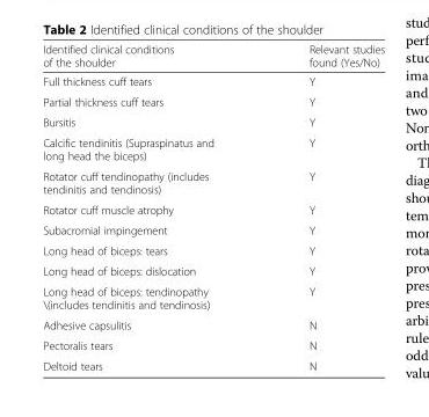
<table><thead><tr><td>Identified clinical conditions of the shoulder</td><td>Relevant studies found (Yes/No)</td></tr></thead><tbody><tr><td>Full thickness cuff tears</td><td>Y</td></tr><tr><td>Partial thickness cuff tears</td><td>Y</td></tr><tr><td>Bursitis</td><td>Y</td></tr><tr><td>Calcific tendinitis (Supraspinatus and long head the biceps)</td><td>Y</td></tr><tr><td>Rotator cuff tendinopathy (includes tendinitis and tendinosis)</td><td>Y</td></tr><tr><td>Rotator cuff muscle atrophy</td><td>Y</td></tr><tr><td>Subacromial impingement</td><td>Y</td></tr><tr><td>Long head of biceps: tears</td><td>Y</td></tr><tr><td>Long head of biceps: dislocation</td><td>Y</td></tr><tr><td>Long head of biceps: tendinopathy \(includes tendinitis and tendinosis)</td><td>Y</td></tr><tr><td>Adhesive capsulitis</td><td>N</td></tr><tr><td>Pectoralis tears</td><td>N</td></tr><tr><td>Deltoid tears</td><td>N</td></tr></tbody></table>